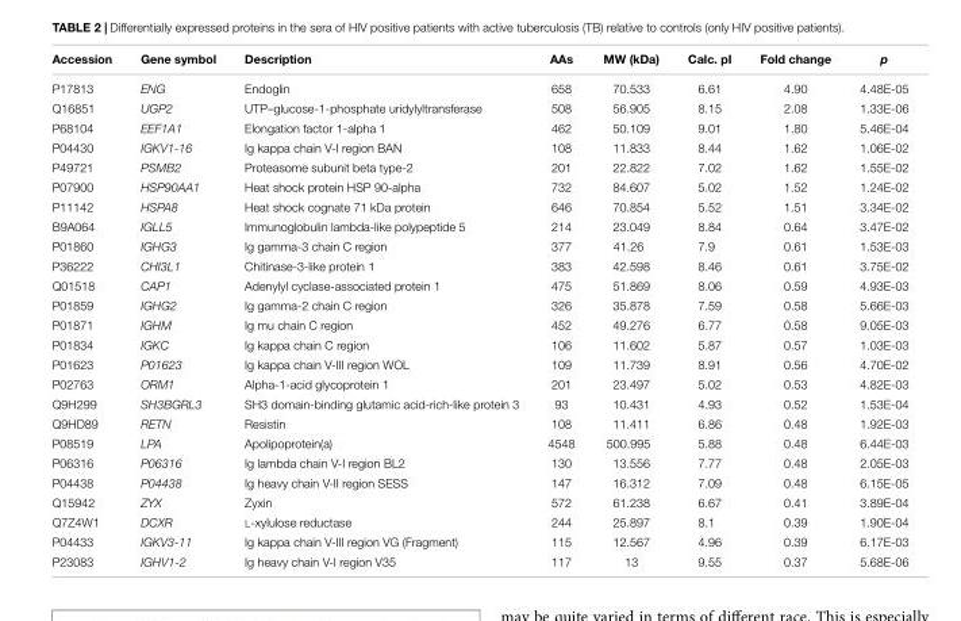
<table><thead><tr><td>Accession</td><td>Gene symbol</td><td>Description</td><td>AAs</td><td>MW (kDa)</td><td>Calc. pI</td><td>Fold change</td><td>p</td></tr></thead><tbody><tr><td>P17813</td><td>ENG</td><td>Endoglin</td><td>658</td><td>70.533</td><td>6.61</td><td>4.90</td><td>4.48E-05</td></tr><tr><td>Q16851</td><td>UGP2</td><td>UTP–glucose-1-phosphate uridylyltransferase</td><td>508</td><td>56.905</td><td>8.15</td><td>2.08</td><td>1.33E-06</td></tr><tr><td>P68104</td><td>EEF1A1</td><td>Elongation factor 1-alpha 1</td><td>462</td><td>50.109</td><td>9.01</td><td>1.80</td><td>5.46E-04</td></tr><tr><td>P04430</td><td>IGKV1-16</td><td>Ig kappa chain V-I region BAN</td><td>108</td><td>11.833</td><td>8.44</td><td>1.62</td><td>1.06E-02</td></tr><tr><td>P49721</td><td>PSMB2</td><td>Proteasome subunit beta type-2</td><td>201</td><td>22.822</td><td>7.02</td><td>1.62</td><td>1.55E-02</td></tr><tr><td>P07900</td><td>HSP90AA1</td><td>Heat shock protein HSP 90-alpha</td><td>732</td><td>84.607</td><td>5.02</td><td>1.52</td><td>1.24E-02</td></tr><tr><td>P11142</td><td>HSPA8</td><td>Heat shock cognate 71 kDa protein</td><td>646</td><td>70.854</td><td>5.52</td><td>1.51</td><td>3.34E-02</td></tr><tr><td>B9A064</td><td>IGLL5</td><td>Immunoglobulin lambda-like polypeptide 5</td><td>214</td><td>23.049</td><td>8.84</td><td>0.64</td><td>3.47E-02</td></tr><tr><td>P01860</td><td>IGHG3</td><td>Ig gamma-3 chain C region</td><td>377</td><td>41.26</td><td>7.9</td><td>0.61</td><td>1.53E-03</td></tr><tr><td>P36222</td><td>CHI3L1</td><td>Chitinase-3-like protein 1</td><td>383</td><td>42.598</td><td>8.46</td><td>0.61</td><td>3.75E-02</td></tr><tr><td>Q01518</td><td>CAP1</td><td>Adenylyl cyclase-associated protein 1</td><td>475</td><td>51.869</td><td>8.06</td><td>0.59</td><td>4.93E-03</td></tr><tr><td>P01859</td><td>IGHG2</td><td>Ig gamma-2 chain C region</td><td>326</td><td>35.878</td><td>7.59</td><td>0.58</td><td>5.66E-03</td></tr><tr><td>P01871</td><td>IGHM</td><td>Ig mu chain C region</td><td>452</td><td>49.276</td><td>6.77</td><td>0.58</td><td>9.05E-03</td></tr><tr><td>P01834</td><td>IGKC</td><td>Ig kappa chain C region</td><td>106</td><td>11.602</td><td>5.87</td><td>0.57</td><td>1.03E-03</td></tr><tr><td>P01623</td><td>P01623</td><td>Ig kappa chain V-III region WOL</td><td>109</td><td>11.739</td><td>8.91</td><td>0.56</td><td>4.70E-02</td></tr><tr><td>P02763</td><td>ORM1</td><td>Alpha-1-acid glycoprotein 1</td><td>201</td><td>23.497</td><td>5.02</td><td>0.53</td><td>4.82E-03</td></tr><tr><td>Q9H299</td><td>SH3BGRL3</td><td>SH3 domain-binding glutamic acid-rich-like protein 3</td><td>93</td><td>10.431</td><td>4.93</td><td>0.52</td><td>1.53E-04</td></tr><tr><td>Q9HD89</td><td>RETN</td><td>Resistin</td><td>108</td><td>11.411</td><td>6.86</td><td>0.48</td><td>1.92E-03</td></tr><tr><td>P08519</td><td>LPA</td><td>Apolipoprotein(a)</td><td>4548</td><td>500.995</td><td>5.88</td><td>0.48</td><td>6.44E-03</td></tr><tr><td>P06316</td><td>P06316</td><td>Ig lambda chain V-I region BL2</td><td>130</td><td>13.556</td><td>7.77</td><td>0.48</td><td>2.05E-03</td></tr><tr><td>P04438</td><td>P04438</td><td>Ig heavy chain V-II region SESS</td><td>147</td><td>16.312</td><td>7.09</td><td>0.48</td><td>6.15E-05</td></tr><tr><td>Q15942</td><td>ZYX</td><td>Zyxin</td><td>572</td><td>61.238</td><td>6.67</td><td>0.41</td><td>3.89E-04</td></tr><tr><td>Q7Z4W1</td><td>DCXR</td><td>L-xylulose reductase</td><td>244</td><td>25.897</td><td>8.1</td><td>0.39</td><td>1.90E-04</td></tr><tr><td>P04433</td><td>IGKV3-11</td><td>Ig kappa chain V-III region VG (Fragment)</td><td>115</td><td>12.567</td><td>4.96</td><td>0.39</td><td>6.17E-03</td></tr><tr><td>P23083</td><td>IGHV1-2</td><td>Ig heavy chain V-I region V35</td><td>117</td><td>13</td><td>9.55</td><td>0.37</td><td>5.68E-06</td></tr></tbody></table>